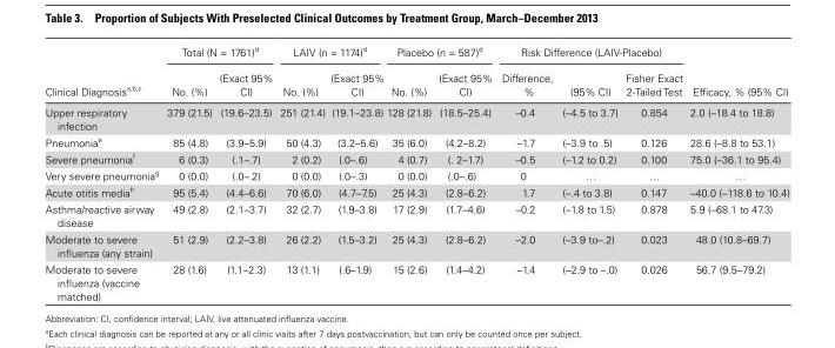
<table><thead><tr><td rowspan="2">Clinical Diagnosis<sup>a,b,c</sup></td><td colspan="2">Total (N = 1761)<sup>d</sup></td><td colspan="2">LAIV (n = 1174)<sup>d</sup></td><td colspan="2">Placebo (n = 587)<sup>d</sup></td><td colspan="3">Risk Difference (LAIV-Placebo)</td><td rowspan="2">Efficacy, % (95% CI)</td></tr><tr><td>No. (%)</td><td>(Exact 95% CI)</td><td>No. (%)</td><td>(Exact 95% CI)</td><td>No. (%)</td><td>(Exact 95% CI)</td><td>Difference, %</td><td>(95% CI)</td><td>Fisher Exact 2-Tailed Test</td></tr></thead><tbody><tr><td>Upper respiratory infection</td><td>379 (21.5)</td><td>(19.6–23.5)</td><td>251 (21.4)</td><td>(19.1–23.8)</td><td>128 (21.8)</td><td>(18.5–25.4)</td><td>–0.4</td><td>(–4.5 to 3.7)</td><td>0.854</td><td>2.0 (–18.4 to 18.8)</td></tr><tr><td>Pneumonia<sup>e</sup></td><td>85 (4.8)</td><td>(3.9–5.9)</td><td>50 (4.3)</td><td>(3.2–5.6)</td><td>35 (6.0)</td><td>(4.2–8.2)</td><td>–1.7</td><td>(–3.9 to .5)</td><td>0.126</td><td>28.6 (–8.8 to 53.1)</td></tr><tr><td>Severe pneumonia<sup>f</sup></td><td>6 (0.3)</td><td>(.1–.7)</td><td>2 (0.2)</td><td>(.0–.6)</td><td>4 (0.7)</td><td>(. 2–1.7)</td><td>–0.5</td><td>(–1.2 to 0.2)</td><td>0.100</td><td>75.0 (–36.1 to 95.4)</td></tr><tr><td>Very severe pneumonia<sup>g</sup></td><td>0 (0.0)</td><td>(.0–.2)</td><td>0 (0.0)</td><td>(.0–.3)</td><td>0 (0.0)</td><td>(.0–.6)</td><td>0</td><td>…</td><td>…</td><td>…</td></tr><tr><td>Acute otitis media<sup>h</sup></td><td>95 (5.4)</td><td>(4.4–6.6)</td><td>70 (6.0)</td><td>(4.7–7.5)</td><td>25 (4.3)</td><td>(2.8–6.2)</td><td>1.7</td><td>(–.4 to 3.8)</td><td>0.147</td><td>–40.0 (–118.6 to 10.4)</td></tr><tr><td>Asthma/reactive airway disease</td><td>49 (2.8)</td><td>(2.1–3.7)</td><td>32 (2.7)</td><td>(1.9–3.8)</td><td>17 (2.9)</td><td>(1.7–4.6)</td><td>–0.2</td><td>(–1.8 to 1.5)</td><td>0.878</td><td>5.9 (–68.1 to 47.3)</td></tr><tr><td>Moderate to severe influenza (any strain)</td><td>51 (2.9)</td><td>(2.2–3.8)</td><td>26 (2.2)</td><td>(1.5–3.2)</td><td>25 (4.3)</td><td>(2.8–6.2)</td><td>–2.0</td><td>(–3.9 to–.2)</td><td>0.023</td><td>48.0 (10.8–69.7)</td></tr><tr><td>Moderate to severe influenza (vaccine matched)</td><td>28 (1.6)</td><td>(1.1–2.3)</td><td>13 (1.1)</td><td>(.6–1.9)</td><td>15 (2.6)</td><td>(1.4–4.2)</td><td>–1.4</td><td>(–2.9 to –.0)</td><td>0.026</td><td>56.7 (9.5–79.2)</td></tr></tbody></table>